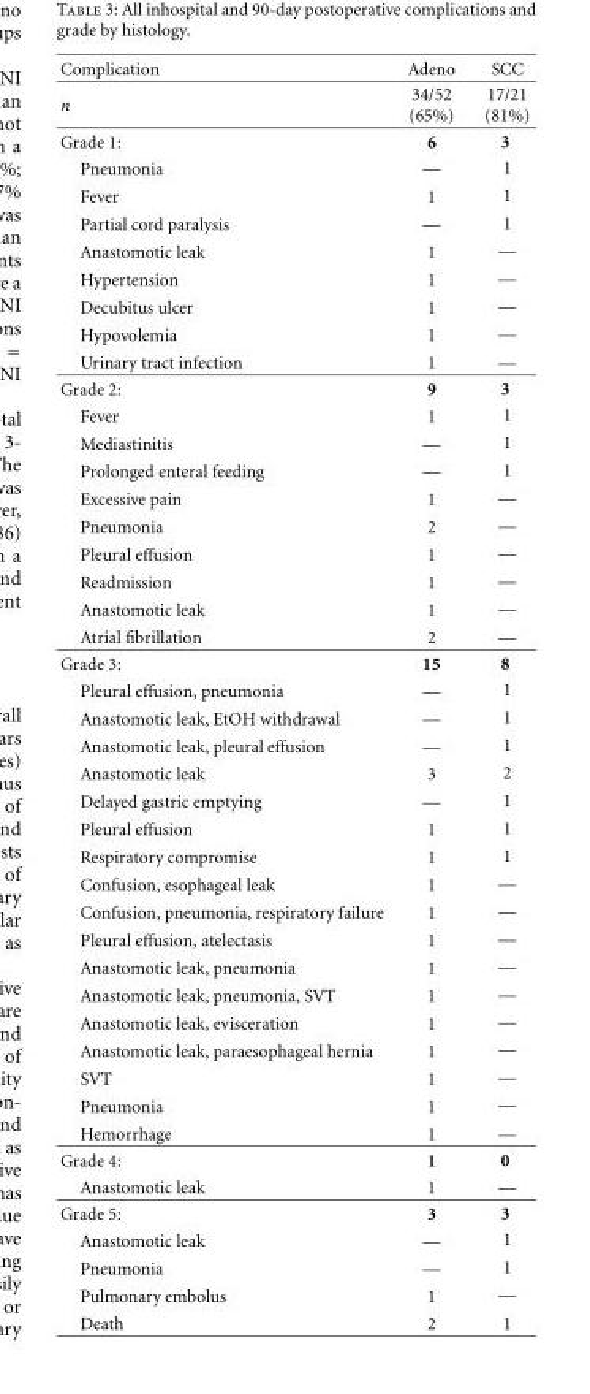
<table><thead><tr><td>Complication</td><td>Adeno</td><td>SCC</td></tr></thead><tbody><tr><td>n</td><td>34/52 (65%)</td><td>17/21 (81%)</td></tr><tr><td>Grade 1:</td><td>6</td><td>3</td></tr><tr><td>Pneumonia</td><td>—</td><td>1</td></tr><tr><td>Fever</td><td>1</td><td>1</td></tr><tr><td>Partial cord paralysis</td><td>—</td><td>1</td></tr><tr><td>Anastomotic leak</td><td>1</td><td>—</td></tr><tr><td>Hypertension</td><td>1</td><td>—</td></tr><tr><td>Decubitus ulcer</td><td>1</td><td>—</td></tr><tr><td>Hypovolemia</td><td>1</td><td>—</td></tr><tr><td>Urinary tract infection</td><td>1</td><td>—</td></tr><tr><td>Grade 2:</td><td>9</td><td>3</td></tr><tr><td>Fever</td><td>1</td><td>1</td></tr><tr><td>Mediastinitis</td><td>—</td><td>1</td></tr><tr><td>Prolonged enteral feeding</td><td>—</td><td>1</td></tr><tr><td>Excessive pain</td><td>1</td><td>—</td></tr><tr><td>Pneumonia</td><td>2</td><td>—</td></tr><tr><td>Pleural effusion</td><td>1</td><td>—</td></tr><tr><td>Readmission</td><td>1</td><td>—</td></tr><tr><td>Anastomotic leak</td><td>1</td><td>—</td></tr><tr><td>Atrial fibrillation</td><td>2</td><td>—</td></tr><tr><td>Grade 3:</td><td>15</td><td>8</td></tr><tr><td>Pleural effusion, pneumonia</td><td>—</td><td>1</td></tr><tr><td>Anastomotic leak, EtOH withdrawal</td><td>—</td><td>1</td></tr><tr><td>Anastomotic leak, pleural effusion</td><td>—</td><td>1</td></tr><tr><td>Anastomotic leak</td><td>3</td><td>2</td></tr><tr><td>Delayed gastric emptying</td><td>—</td><td>1</td></tr><tr><td>Pleural effusion</td><td>1</td><td>1</td></tr><tr><td>Respiratory compromise</td><td>1</td><td>1</td></tr><tr><td>Confusion, esophageal leak</td><td>1</td><td>—</td></tr><tr><td>Confusion, pneumonia, respiratory failure</td><td>1</td><td>—</td></tr><tr><td>Pleural effusion, atelectasis</td><td>1</td><td>—</td></tr><tr><td>Anastomotic leak, pneumonia</td><td>1</td><td>—</td></tr><tr><td>Anastomotic leak, pneumonia, SVT</td><td>1</td><td>—</td></tr><tr><td>Anastomotic leak, evisceration</td><td>1</td><td>—</td></tr><tr><td>Anastomotic leak, paraesophageal hernia</td><td>1</td><td>—</td></tr><tr><td>SVT</td><td>1</td><td>—</td></tr><tr><td>Pneumonia</td><td>1</td><td>—</td></tr><tr><td>Hemorrhage</td><td>1</td><td>—</td></tr><tr><td>Grade 4:</td><td>1</td><td>0</td></tr><tr><td>Anastomotic leak</td><td>1</td><td>—</td></tr><tr><td>Grade 5:</td><td>3</td><td>3</td></tr><tr><td>Anastomotic leak</td><td>—</td><td>1</td></tr><tr><td>Pneumonia</td><td>—</td><td>1</td></tr><tr><td>Pulmonary embolus</td><td>1</td><td>—</td></tr><tr><td>Death</td><td>2</td><td>1</td></tr></tbody></table>